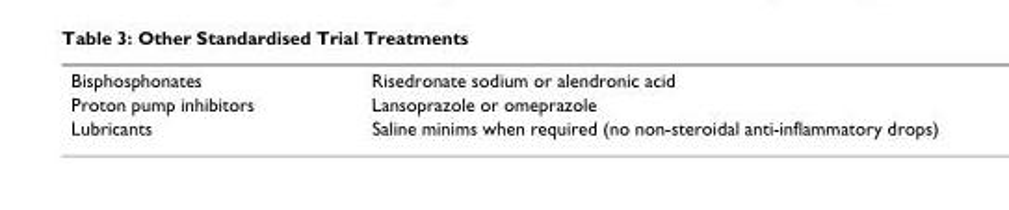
<table><tbody><tr><td>Bisphosphonates</td><td>Risedronate sodium or alendronic acid</td></tr><tr><td>Proton pump inhibitors</td><td>Lansoprazole or omeprazole</td></tr><tr><td>Lubricants</td><td>Saline minims when required (no non-steroidal anti-inflammatory drops)</td></tr></tbody></table>